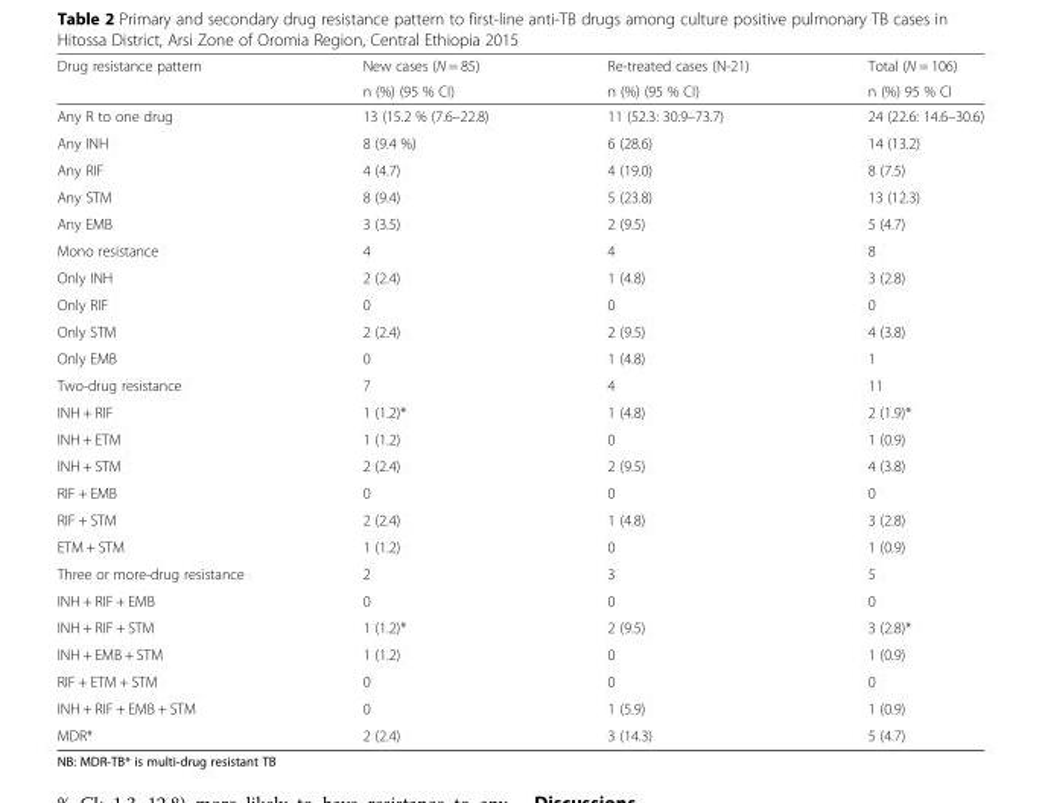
<table><thead><tr><td rowspan="2">Drug resistance pattern</td><td rowspan="2">New cases (N = 85) n (%) (95 % CI)</td><td rowspan="2">Re-treated cases (N-21) n (%) (95 % CI)</td><td rowspan="2">Total (N = 106) n (%) 95 % CI</td></tr><tr></tr></thead><tbody><tr><td>Any R to one drug</td><td>13 (15.2 % (7.6–22.8)</td><td>11 (52.3: 30.9–73.7)</td><td>24 (22.6: 14.6–30.6)</td></tr><tr><td>Any INH</td><td>8 (9.4 %)</td><td>6 (28.6)</td><td>14 (13.2)</td></tr><tr><td>Any RIF</td><td>4 (4.7)</td><td>4 (19.0)</td><td>8 (7.5)</td></tr><tr><td>Any STM</td><td>8 (9.4)</td><td>5 (23.8)</td><td>13 (12.3)</td></tr><tr><td>Any EMB</td><td>3 (3.5)</td><td>2 (9.5)</td><td>5 (4.7)</td></tr><tr><td>Mono resistance</td><td>4</td><td>4</td><td>8</td></tr><tr><td>Only INH</td><td>2 (2.4)</td><td>1 (4.8)</td><td>3 (2.8)</td></tr><tr><td>Only RIF</td><td>0</td><td>0</td><td>0</td></tr><tr><td>Only STM</td><td>2 (2.4)</td><td>2 (9.5)</td><td>4 (3.8)</td></tr><tr><td>Only EMB</td><td>0</td><td>1 (4.8)</td><td>1</td></tr><tr><td>Two-drug resistance</td><td>7</td><td>4</td><td>11</td></tr><tr><td>INH + RIF</td><td>1 (1.2)*</td><td>1 (4.8)</td><td>2 (1.9)*</td></tr><tr><td>INH + ETM</td><td>1 (1.2)</td><td>0</td><td>1 (0.9)</td></tr><tr><td>INH + STM</td><td>2 (2.4)</td><td>2 (9.5)</td><td>4 (3.8)</td></tr><tr><td>RIF + EMB</td><td>0</td><td>0</td><td>0</td></tr><tr><td>RIF + STM</td><td>2 (2.4)</td><td>1 (4.8)</td><td>3 (2.8)</td></tr><tr><td>ETM + STM</td><td>1 (1.2)</td><td>0</td><td>1 (0.9)</td></tr><tr><td>Three or more-drug resistance</td><td>2</td><td>3</td><td>5</td></tr><tr><td>INH + RIF + EMB</td><td>0</td><td>0</td><td>0</td></tr><tr><td>INH + RIF + STM</td><td>1 (1.2)*</td><td>2 (9.5)</td><td>3 (2.8)*</td></tr><tr><td>INH + EMB + STM</td><td>1 (1.2)</td><td>0</td><td>1 (0.9)</td></tr><tr><td>RIF + ETM + STM</td><td>0</td><td>0</td><td>0</td></tr><tr><td>INH + RIF + EMB + STM</td><td>0</td><td>1 (5.9)</td><td>1 (0.9)</td></tr><tr><td>MDR*</td><td>2 (2.4)</td><td>3 (14.3)</td><td>5 (4.7)</td></tr></tbody></table>